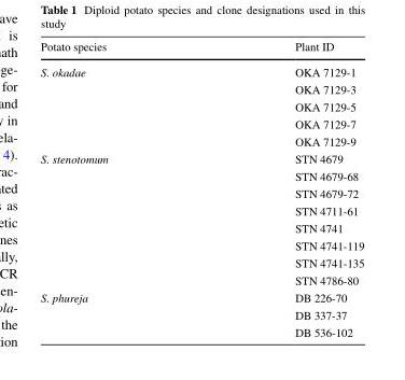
<table><thead><tr><td>Potato species</td><td>Plant ID</td></tr></thead><tbody><tr><td rowspan="5">S. okadae</td><td>OKA 7129-1</td></tr><tr><td>OKA 7129-3</td></tr><tr><td>OKA 7129-5</td></tr><tr><td>OKA 7129-7</td></tr><tr><td>OKA 7129-9</td></tr><tr><td rowspan="8">S. stenotomum</td><td>STN 4679</td></tr><tr><td>STN 4679-68</td></tr><tr><td>STN 4679-72</td></tr><tr><td>STN 4711-61</td></tr><tr><td>STN 4741</td></tr><tr><td>STN 4741-119</td></tr><tr><td>STN 4741-135</td></tr><tr><td>STN 4786-80</td></tr><tr><td rowspan="3">S. phureja</td><td>DB 226-70</td></tr><tr><td>DB 337-37</td></tr><tr><td>DB 536-102</td></tr></tbody></table>